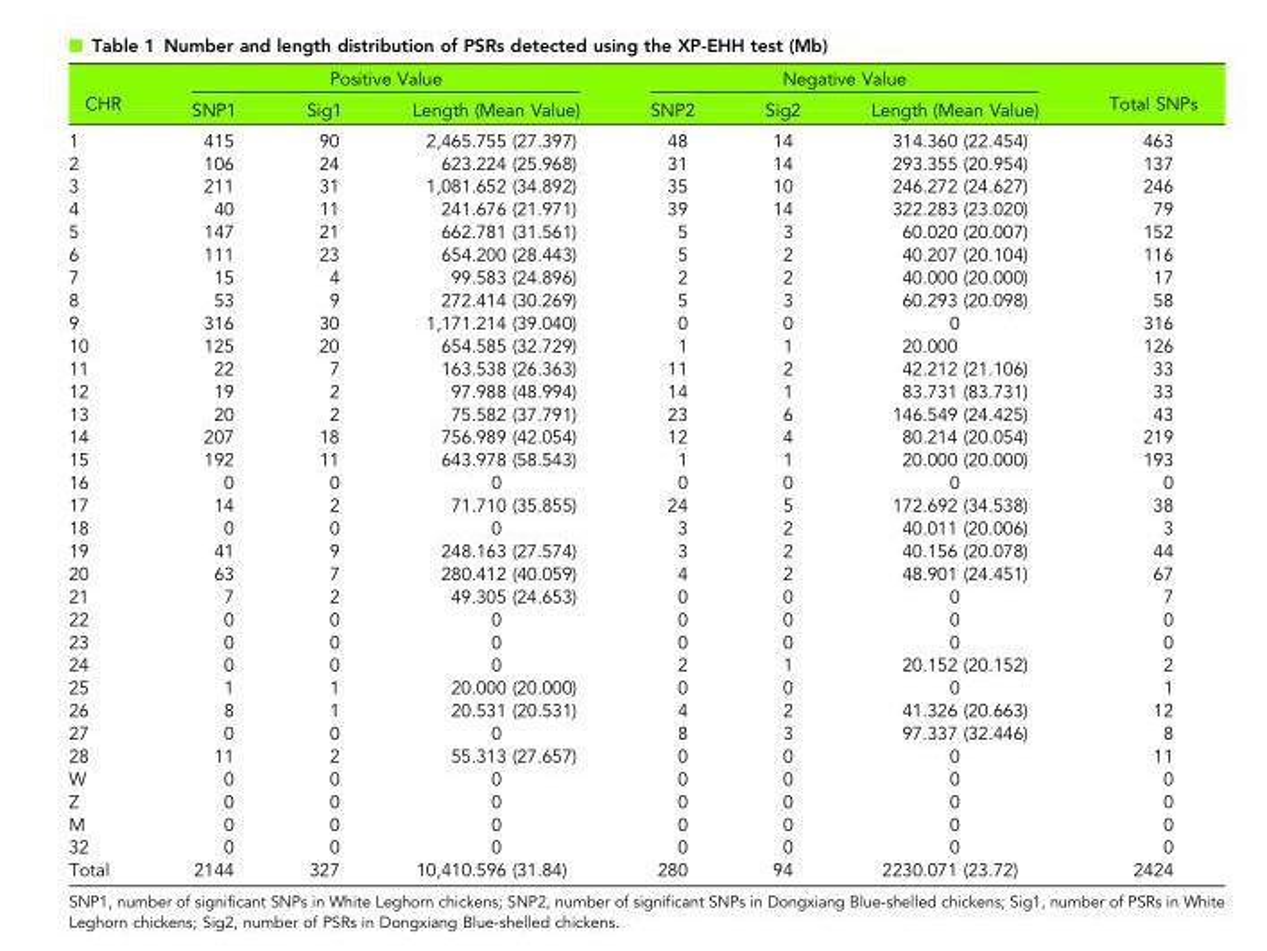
<table><thead><tr><td rowspan="2">CHR</td><td colspan="3">Positive Value</td><td colspan="3">Negative Value</td><td rowspan="2">Total SNPs</td></tr><tr><td>SNP1</td><td>Sig1</td><td>Length (Mean Value)</td><td>SNP2</td><td>Sig2</td><td>Length (Mean Value)</td></tr></thead><tbody><tr><td>1</td><td>415</td><td>90</td><td>2,465.755 (27.397)</td><td>48</td><td>14</td><td>314.360 (22.454)</td><td>463</td></tr><tr><td>2</td><td>106</td><td>24</td><td>623.224 (25.968)</td><td>31</td><td>14</td><td>293.355 (20.954)</td><td>137</td></tr><tr><td>3</td><td>211</td><td>31</td><td>1,081.652 (34.892)</td><td>35</td><td>10</td><td>246.272 (24.627)</td><td>246</td></tr><tr><td>4</td><td>40</td><td>11</td><td>241.676 (21.971)</td><td>39</td><td>14</td><td>322.283 (23.020)</td><td>79</td></tr><tr><td>5</td><td>147</td><td>21</td><td>662.781 (31.561)</td><td>5</td><td>3</td><td>60.020 (20.007)</td><td>152</td></tr><tr><td>6</td><td>111</td><td>23</td><td>654.200 (28.443)</td><td>5</td><td>2</td><td>40.207 (20.104)</td><td>116</td></tr><tr><td>7</td><td>15</td><td>4</td><td>99.583 (24.896)</td><td>2</td><td>2</td><td>40.000 (20.000)</td><td>17</td></tr><tr><td>8</td><td>53</td><td>9</td><td>272.414 (30.269)</td><td>5</td><td>3</td><td>60.293 (20.098)</td><td>58</td></tr><tr><td>9</td><td>316</td><td>30</td><td>1,171.214 (39.040)</td><td>0</td><td>0</td><td>0</td><td>316</td></tr><tr><td>10</td><td>125</td><td>20</td><td>654.585 (32.729)</td><td>1</td><td>1</td><td>20.000</td><td>126</td></tr><tr><td>11</td><td>22</td><td>7</td><td>163.538 (26.363)</td><td>11</td><td>2</td><td>42.212 (21.106)</td><td>33</td></tr><tr><td>12</td><td>19</td><td>2</td><td>97.988 (48.994)</td><td>14</td><td>1</td><td>83.731 (83.731)</td><td>33</td></tr><tr><td>13</td><td>20</td><td>2</td><td>75.582 (37.791)</td><td>23</td><td>6</td><td>146.549 (24.425)</td><td>43</td></tr><tr><td>14</td><td>207</td><td>18</td><td>756.989 (42.054)</td><td>12</td><td>4</td><td>80.214 (20.054)</td><td>219</td></tr><tr><td>15</td><td>192</td><td>11</td><td>643.978 (58.543)</td><td>1</td><td>1</td><td>20.000 (20.000)</td><td>193</td></tr><tr><td>16</td><td>0</td><td>0</td><td>0</td><td>0</td><td>0</td><td>0</td><td>0</td></tr><tr><td>17</td><td>14</td><td>2</td><td>71.710 (35.855)</td><td>24</td><td>5</td><td>172.692 (34.538)</td><td>38</td></tr><tr><td>18</td><td>0</td><td>0</td><td>0</td><td>3</td><td>2</td><td>40.011 (20.006)</td><td>3</td></tr><tr><td>19</td><td>41</td><td>9</td><td>248.163 (27.574)</td><td>3</td><td>2</td><td>40.156 (20.078)</td><td>44</td></tr><tr><td>20</td><td>63</td><td>7</td><td>280.412 (40.059)</td><td>4</td><td>2</td><td>48.901 (24.451)</td><td>67</td></tr><tr><td>21</td><td>7</td><td>2</td><td>49.305 (24.653)</td><td>0</td><td>0</td><td>0</td><td>7</td></tr><tr><td>22</td><td>0</td><td>0</td><td>0</td><td>0</td><td>0</td><td>0</td><td>0</td></tr><tr><td>23</td><td>0</td><td>0</td><td>0</td><td>0</td><td>0</td><td>0</td><td>0</td></tr><tr><td>24</td><td>0</td><td>0</td><td>0</td><td>2</td><td>1</td><td>20.152 (20.152)</td><td>2</td></tr><tr><td>25</td><td>1</td><td>1</td><td>20.000 (20.000)</td><td>0</td><td>0</td><td>0</td><td>1</td></tr><tr><td>26</td><td>8</td><td>1</td><td>20.531 (20.531)</td><td>4</td><td>2</td><td>41.326 (20.663)</td><td>12</td></tr><tr><td>27</td><td>0</td><td>0</td><td>0</td><td>8</td><td>3</td><td>97.337 (32.446)</td><td>8</td></tr><tr><td>28</td><td>11</td><td>2</td><td>55.313 (27.657)</td><td>0</td><td>0</td><td>0</td><td>11</td></tr><tr><td>W</td><td>0</td><td>0</td><td>0</td><td>0</td><td>0</td><td>0</td><td>0</td></tr><tr><td>Z</td><td>0</td><td>0</td><td>0</td><td>0</td><td>0</td><td>0</td><td>0</td></tr><tr><td>M</td><td>0</td><td>0</td><td>0</td><td>0</td><td>0</td><td>0</td><td>0</td></tr><tr><td>32</td><td>0</td><td>0</td><td>0</td><td>0</td><td>0</td><td>0</td><td>0</td></tr><tr><td>Total</td><td>2144</td><td>327</td><td>10,410.596 (31.84)</td><td>280</td><td>94</td><td>2230.071 (23.72)</td><td>2424</td></tr></tbody></table>